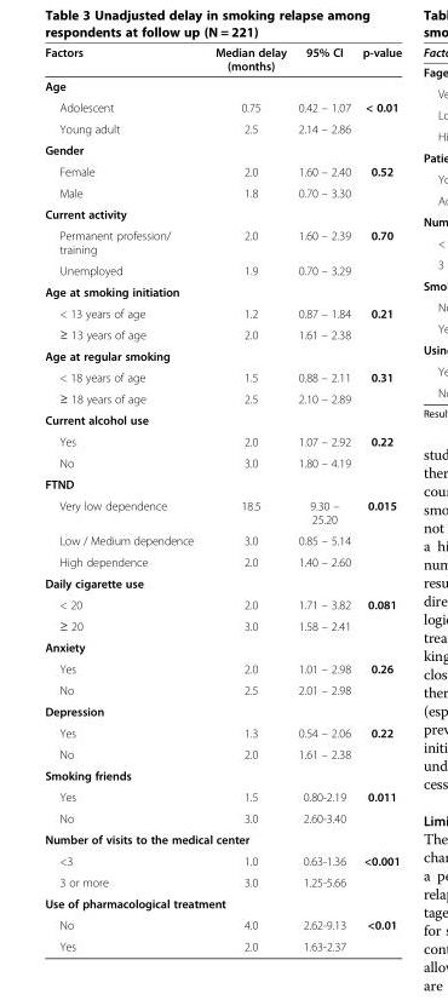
<table><thead><tr><td>Factors</td><td>Median delay (months)</td><td>95% CI</td><td>p-value</td></tr></thead><tbody><tr><td colspan="4">Age</td></tr><tr><td>Adolescent</td><td>0.75</td><td>0.42 – 1.07</td><td>&lt; 0.01</td></tr><tr><td>Young adult</td><td>2.5</td><td>2.14 – 2.86</td><td></td></tr><tr><td colspan="4">Gender</td></tr><tr><td>Female</td><td>2.0</td><td>1.60 – 2.40</td><td>0.52</td></tr><tr><td>Male</td><td>1.8</td><td>0.70 – 3.30</td><td></td></tr><tr><td colspan="4">Current activity</td></tr><tr><td>Permanent profession/ training</td><td>2.0</td><td>1.60 – 2.39</td><td>0.70</td></tr><tr><td>Unemployed</td><td>1.9</td><td>0.70 – 3.29</td><td></td></tr><tr><td colspan="4">Age at smoking initiation</td></tr><tr><td>&lt; 13 years of age</td><td>1.2</td><td>0.87 – 1.84</td><td>0.21</td></tr><tr><td>≥ 13 years of age</td><td>2.0</td><td>1.61 – 2.38</td><td></td></tr><tr><td colspan="4">Age at regular smoking</td></tr><tr><td>&lt; 18 years of age</td><td>1.5</td><td>0.88 – 2.11</td><td>0.31</td></tr><tr><td>≥ 18 years of age</td><td>2.5</td><td>2.10 – 2.89</td><td></td></tr><tr><td colspan="4">Current alcohol use</td></tr><tr><td>Yes</td><td>2.0</td><td>1.07 – 2.92</td><td>0.22</td></tr><tr><td>No</td><td>3.0</td><td>1.80 – 4.19</td><td></td></tr><tr><td colspan="4">FTND</td></tr><tr><td>Very low dependence</td><td>18.5</td><td>9.30 – 25.20</td><td>0.015</td></tr><tr><td>Low / Medium dependence</td><td>3.0</td><td>0.85 – 5.14</td><td></td></tr><tr><td>High dependence</td><td>2.0</td><td>1.40 – 2.60</td><td></td></tr><tr><td colspan="4">Daily cigarette use</td></tr><tr><td>&lt; 20</td><td>2.0</td><td>1.71 – 3.82</td><td>0.081</td></tr><tr><td>≥ 20</td><td>3.0</td><td>1.58 – 2.41</td><td></td></tr><tr><td colspan="4">Anxiety</td></tr><tr><td>Yes</td><td>2.0</td><td>1.01 – 2.98</td><td>0.26</td></tr><tr><td>No</td><td>2.5</td><td>2.01 – 2.98</td><td></td></tr><tr><td colspan="4">Depression</td></tr><tr><td>Yes</td><td>1.3</td><td>0.54 – 2.06</td><td>0.22</td></tr><tr><td>No</td><td>2.0</td><td>1.61 – 2.38</td><td></td></tr><tr><td colspan="4">Smoking friends</td></tr><tr><td>Yes</td><td>1.5</td><td>0.80-2.19</td><td>0.011</td></tr><tr><td>No</td><td>3.0</td><td>2.60-3.40</td><td></td></tr><tr><td colspan="4">Number of visits to the medical center</td></tr><tr><td>&lt;3</td><td>1.0</td><td>0.63-1.36</td><td>&lt;0.001</td></tr><tr><td>3 or more</td><td>3.0</td><td>1.25-5.66</td><td></td></tr><tr><td colspan="4">Use of pharmacological treatment</td></tr><tr><td>No</td><td>4.0</td><td>2.62-9.13</td><td>&lt;0.01</td></tr><tr><td>Yes</td><td>2.0</td><td>1.63-2.37</td><td></td></tr></tbody></table>